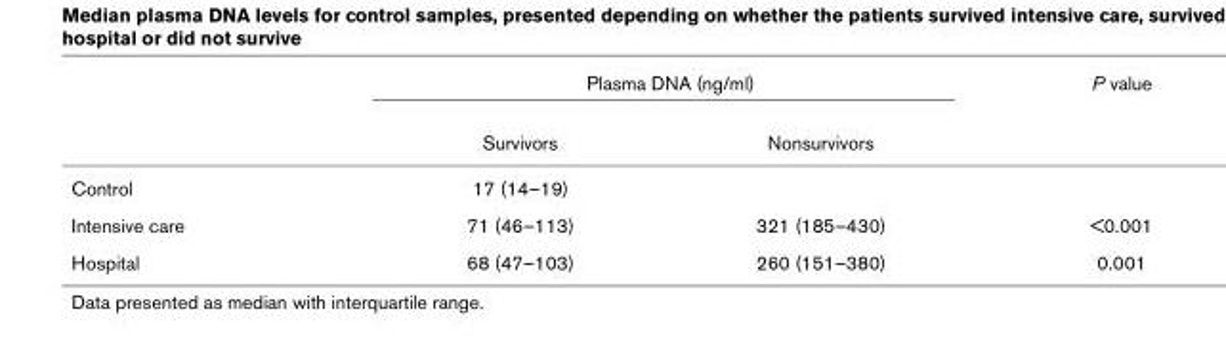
<table><thead><tr><td rowspan="2"></td><td colspan="2">Plasma DNA (ng/ml)</td><td rowspan="2">P value</td></tr><tr><td>Survivors</td><td>Nonsurvivors</td></tr></thead><tbody><tr><td>Control</td><td>17 (14–19)</td><td></td><td></td></tr><tr><td>Intensive care</td><td>71 (46–113)</td><td>321 (185–430)</td><td>&lt;0.001</td></tr><tr><td>Hospital</td><td>68 (47–103)</td><td>260 (151–380)</td><td>0.001</td></tr></tbody></table>